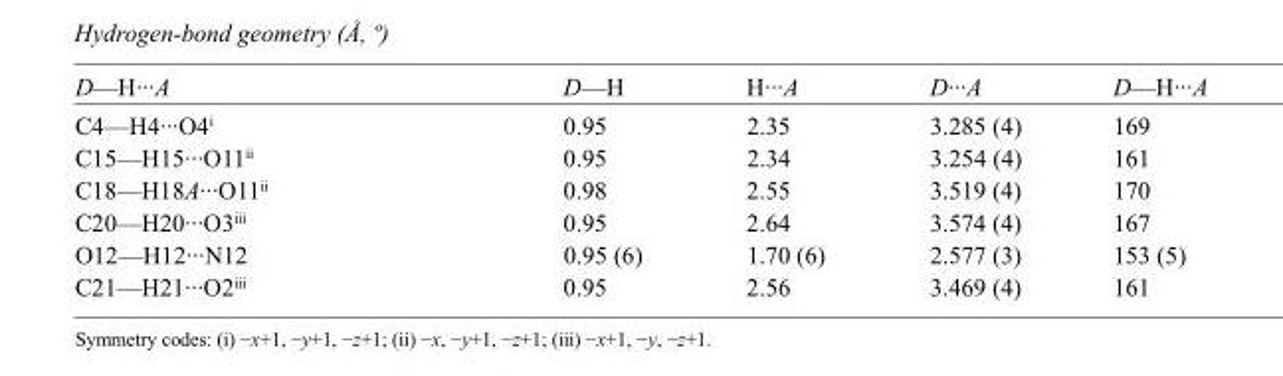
<table><tbody><tr><td>D—H···A</td><td>D—H</td><td>H···A</td><td>D···A</td><td>D—H···A</td></tr><tr><td>C4—H4···O4<sup>i</sup></td><td>0.95</td><td>2.35</td><td>3.285 (4)</td><td>169</td></tr><tr><td>C15—H15···O11<sup>ii</sup></td><td>0.95</td><td>2.34</td><td>3.254 (4)</td><td>161</td></tr><tr><td>C18—H18A···O11<sup>ii</sup></td><td>0.98</td><td>2.55</td><td>3.519 (4)</td><td>170</td></tr><tr><td>C20—H20···O3<sup>iii</sup></td><td>0.95</td><td>2.64</td><td>3.574 (4)</td><td>167</td></tr><tr><td>O12—H12···N12</td><td>0.95 (6)</td><td>1.70 (6)</td><td>2.577 (3)</td><td>153 (5)</td></tr><tr><td>C21—H21···O2<sup>iii</sup></td><td>0.95</td><td>2.56</td><td>3.469 (4)</td><td>161</td></tr></tbody></table>